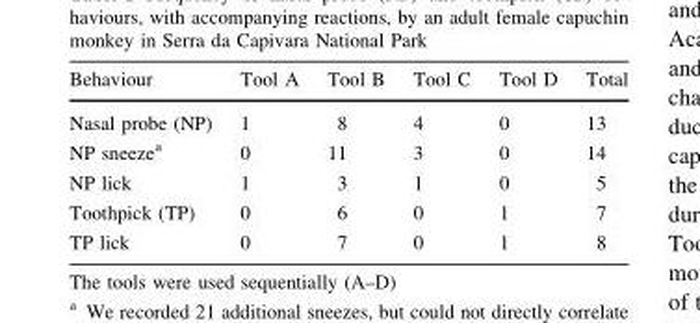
<table><thead><tr><td>Behaviour</td><td>Tool A</td><td>Tool B</td><td>Tool C</td><td>Tool D</td><td>Total</td></tr></thead><tbody><tr><td>Nasal probe (NP)</td><td>1</td><td>8</td><td>4</td><td>0</td><td>13</td></tr><tr><td>NP sneeze<sup>a</sup></td><td>0</td><td>11</td><td>3</td><td>0</td><td>14</td></tr><tr><td>NP lick</td><td>1</td><td>3</td><td>1</td><td>0</td><td>5</td></tr><tr><td>Toothpick (TP)</td><td>0</td><td>6</td><td>0</td><td>1</td><td>7</td></tr><tr><td>TP lick</td><td>0</td><td>7</td><td>0</td><td>1</td><td>8</td></tr></tbody></table>